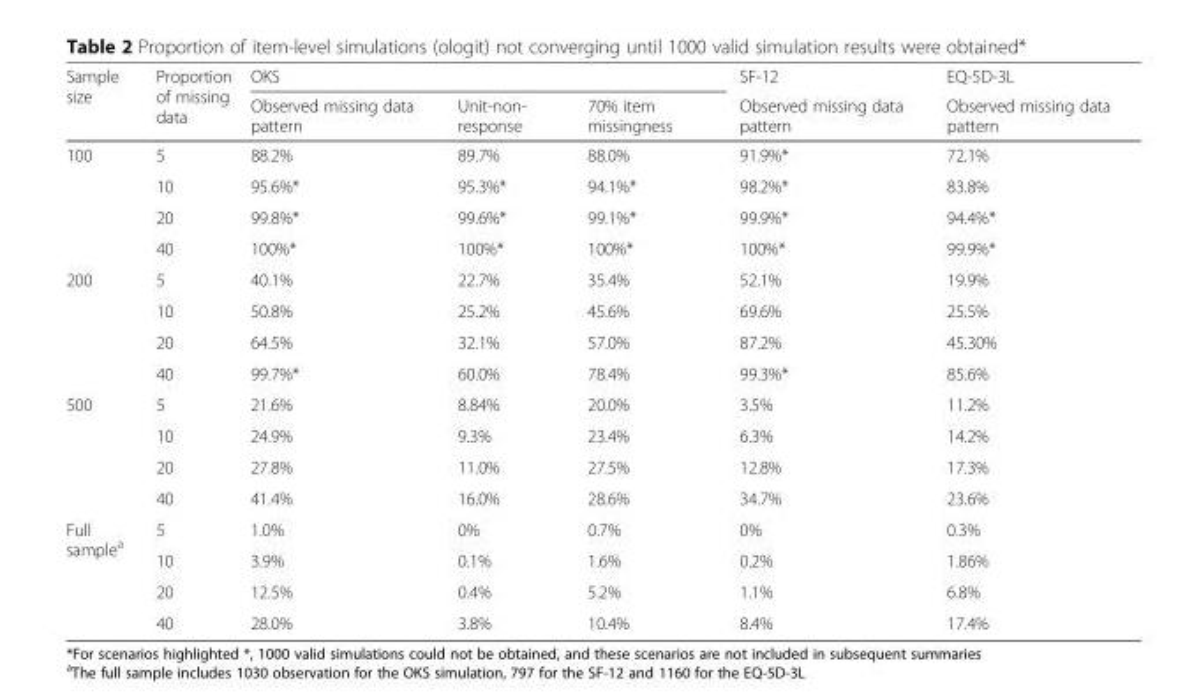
<table><thead><tr><td rowspan="2">Sample size</td><td rowspan="2">Proportion of missing data</td><td colspan="3">OKS</td><td rowspan="2">SF-12 Observed missing data pattern</td><td rowspan="2">EQ-5D-3L Observed missing data pattern</td></tr><tr><td>Observed missing data pattern</td><td>Unit-non- response</td><td>70% item missingness</td></tr></thead><tbody><tr><td rowspan="4">100</td><td>5</td><td>88.2%</td><td>89.7%</td><td>88.0%</td><td>91.9%*</td><td>72.1%</td></tr><tr><td>10</td><td>95.6%*</td><td>95.3%*</td><td>94.1%*</td><td>98.2%*</td><td>83.8%</td></tr><tr><td>20</td><td>99.8%*</td><td>99.6%*</td><td>99.1%*</td><td>99.9%*</td><td>94.4%*</td></tr><tr><td>40</td><td>100%*</td><td>100%*</td><td>100%*</td><td>100%*</td><td>99.9%*</td></tr><tr><td rowspan="4">200</td><td>5</td><td>40.1%</td><td>22.7%</td><td>35.4%</td><td>52.1%</td><td>19.9%</td></tr><tr><td>10</td><td>50.8%</td><td>25.2%</td><td>45.6%</td><td>69.6%</td><td>25.5%</td></tr><tr><td>20</td><td>64.5%</td><td>32.1%</td><td>57.0%</td><td>87.2%</td><td>45.30%</td></tr><tr><td>40</td><td>99.7%*</td><td>60.0%</td><td>78.4%</td><td>99.3%*</td><td>85.6%</td></tr><tr><td rowspan="4">500</td><td>5</td><td>21.6%</td><td>8.84%</td><td>20.0%</td><td>3.5%</td><td>11.2%</td></tr><tr><td>10</td><td>24.9%</td><td>9.3%</td><td>23.4%</td><td>6.3%</td><td>14.2%</td></tr><tr><td>20</td><td>27.8%</td><td>11.0%</td><td>27.5%</td><td>12.8%</td><td>17.3%</td></tr><tr><td>40</td><td>41.4%</td><td>16.0%</td><td>28.6%</td><td>34.7%</td><td>23.6%</td></tr><tr><td rowspan="4">Full sample<sup>a</sup></td><td>5</td><td>1.0%</td><td>0%</td><td>0.7%</td><td>0%</td><td>0.3%</td></tr><tr><td>10</td><td>3.9%</td><td>0.1%</td><td>1.6%</td><td>0.2%</td><td>1.86%</td></tr><tr><td>20</td><td>12.5%</td><td>0.4%</td><td>5.2%</td><td>1.1%</td><td>6.8%</td></tr><tr><td>40</td><td>28.0%</td><td>3.8%</td><td>10.4%</td><td>8.4%</td><td>17.4%</td></tr></tbody></table>